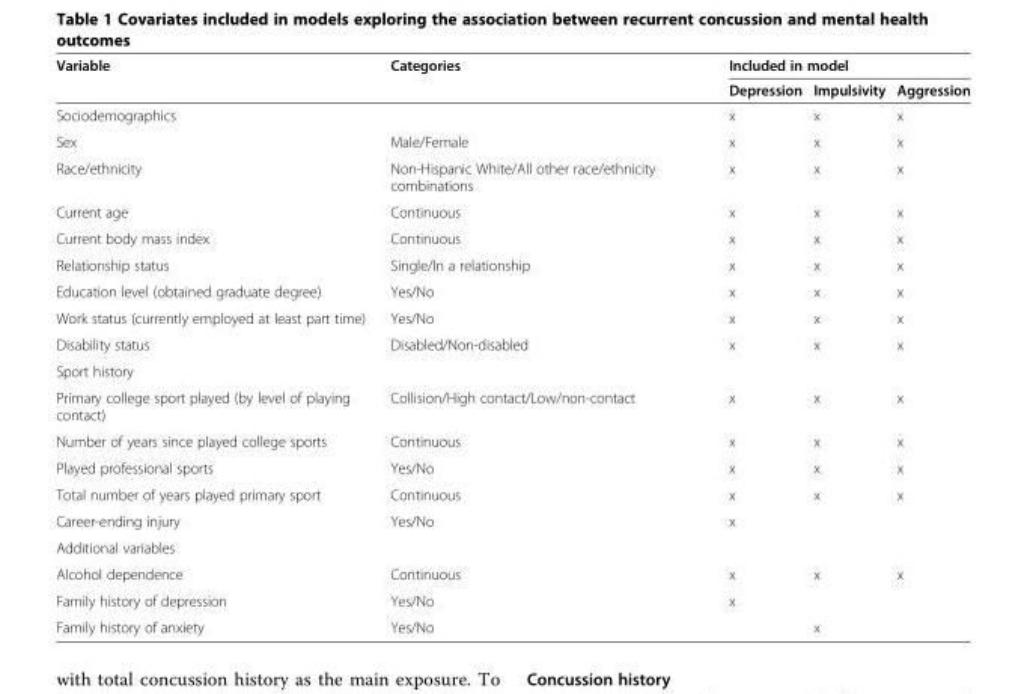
<table><thead><tr><td rowspan="2">Variable</td><td rowspan="2">Categories</td><td colspan="3">Included in model</td></tr><tr><td>Depression</td><td>Impulsivity</td><td>Aggression</td></tr></thead><tbody><tr><td colspan="2">Sociodemographics</td><td>x</td><td>x</td><td>x</td></tr><tr><td>Sex</td><td>Male/Female</td><td>x</td><td>x</td><td>x</td></tr><tr><td>Race/ethnicity</td><td>Non-Hispanic White/All other race/ethnicity combinations</td><td>x</td><td>x</td><td>x</td></tr><tr><td>Current age</td><td>Continuous</td><td>x</td><td>x</td><td>x</td></tr><tr><td>Current body mass index</td><td>Continuous</td><td>x</td><td>x</td><td>x</td></tr><tr><td>Relationship status</td><td>Single/In a relationship</td><td>x</td><td>x</td><td>x</td></tr><tr><td>Education level (obtained graduate degree)</td><td>Yes/No</td><td>x</td><td>x</td><td>x</td></tr><tr><td>Work status (currently employed at least part time)</td><td>Yes/No</td><td>x</td><td>x</td><td>x</td></tr><tr><td>Disability status</td><td>Disabled/Non-disabled</td><td>x</td><td>x</td><td>x</td></tr><tr><td colspan="5">Sport history</td></tr><tr><td>Primary college sport played (by level of playing contact)</td><td>Collision/High contact/Low/non-contact</td><td>x</td><td>x</td><td>x</td></tr><tr><td>Number of years since played college sports</td><td>Continuous</td><td>x</td><td>x</td><td>x</td></tr><tr><td>Played professional sports</td><td>Yes/No</td><td>x</td><td>x</td><td>x</td></tr><tr><td>Total number of years played primary sport</td><td>Continuous</td><td>x</td><td>x</td><td>x</td></tr><tr><td>Career-ending injury</td><td>Yes/No</td><td>x</td><td></td><td></td></tr><tr><td colspan="5">Additional variables</td></tr><tr><td>Alcohol dependence</td><td>Continuous</td><td>x</td><td>x</td><td>x</td></tr><tr><td>Family history of depression</td><td>Yes/No</td><td>x</td><td></td><td></td></tr><tr><td>Family history of anxiety</td><td colspan="2">Yes/No</td><td>x</td><td></td></tr></tbody></table>